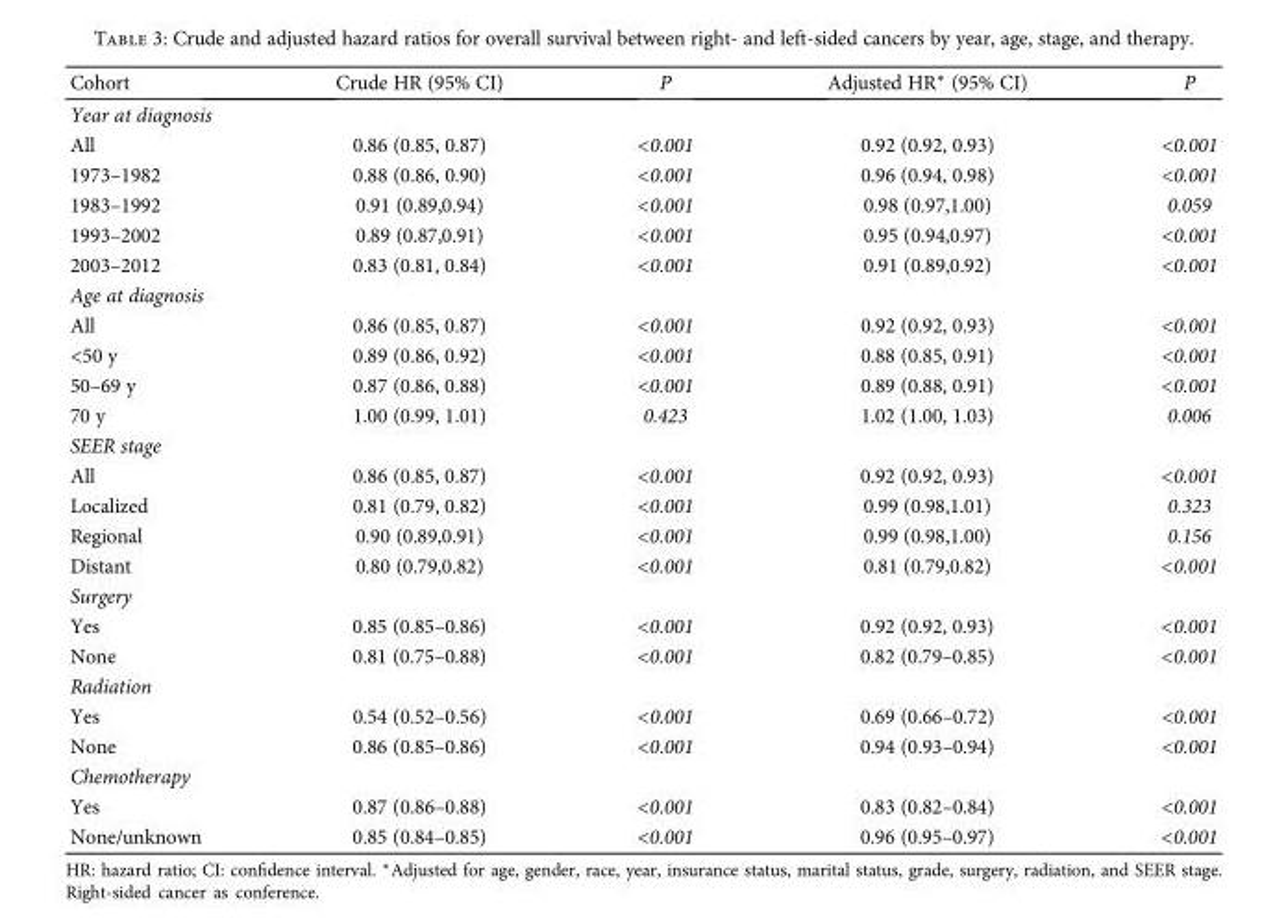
<table><thead><tr><td>Cohort</td><td>Crude HR (95% CI)</td><td>P</td><td>Adjusted HR∗ (95% CI)</td><td>P</td></tr></thead><tbody><tr><td colspan="5">Year at diagnosis</td></tr><tr><td>All</td><td>0.86 (0.85, 0.87)</td><td>&lt;0.001</td><td>0.92 (0.92, 0.93)</td><td>&lt;0.001</td></tr><tr><td>1973–1982</td><td>0.88 (0.86, 0.90)</td><td>&lt;0.001</td><td>0.96 (0.94, 0.98)</td><td>&lt;0.001</td></tr><tr><td>1983–1992</td><td>0.91 (0.89,0.94)</td><td>&lt;0.001</td><td>0.98 (0.97,1.00)</td><td>0.059</td></tr><tr><td>1993–2002</td><td>0.89 (0.87,0.91)</td><td>&lt;0.001</td><td>0.95 (0.94,0.97)</td><td>&lt;0.001</td></tr><tr><td>2003–2012</td><td>0.83 (0.81, 0.84)</td><td>&lt;0.001</td><td>0.91 (0.89,0.92)</td><td>&lt;0.001</td></tr><tr><td colspan="5">Age at diagnosis</td></tr><tr><td>All</td><td>0.86 (0.85, 0.87)</td><td>&lt;0.001</td><td>0.92 (0.92, 0.93)</td><td>&lt;0.001</td></tr><tr><td>&lt;50 y</td><td>0.89 (0.86, 0.92)</td><td>&lt;0.001</td><td>0.88 (0.85, 0.91)</td><td>&lt;0.001</td></tr><tr><td>50–69 y</td><td>0.87 (0.86, 0.88)</td><td>&lt;0.001</td><td>0.89 (0.88, 0.91)</td><td>&lt;0.001</td></tr><tr><td>70 y</td><td>1.00 (0.99, 1.01)</td><td>0.423</td><td>1.02 (1.00, 1.03)</td><td>0.006</td></tr><tr><td colspan="5">SEER stage</td></tr><tr><td>All</td><td>0.86 (0.85, 0.87)</td><td>&lt;0.001</td><td>0.92 (0.92, 0.93)</td><td>&lt;0.001</td></tr><tr><td>Localized</td><td>0.81 (0.79, 0.82)</td><td>&lt;0.001</td><td>0.99 (0.98,1.01)</td><td>0.323</td></tr><tr><td>Regional</td><td>0.90 (0.89,0.91)</td><td>&lt;0.001</td><td>0.99 (0.98,1.00)</td><td>0.156</td></tr><tr><td>Distant</td><td>0.80 (0.79,0.82)</td><td>&lt;0.001</td><td>0.81 (0.79,0.82)</td><td>&lt;0.001</td></tr><tr><td colspan="5">Surgery</td></tr><tr><td>Yes</td><td>0.85 (0.85–0.86)</td><td>&lt;0.001</td><td>0.92 (0.92, 0.93)</td><td>&lt;0.001</td></tr><tr><td>None</td><td>0.81 (0.75–0.88)</td><td>&lt;0.001</td><td>0.82 (0.79–0.85)</td><td>&lt;0.001</td></tr><tr><td colspan="5">Radiation</td></tr><tr><td>Yes</td><td>0.54 (0.52–0.56)</td><td>&lt;0.001</td><td>0.69 (0.66–0.72)</td><td>&lt;0.001</td></tr><tr><td>None</td><td>0.86 (0.85–0.86)</td><td>&lt;0.001</td><td>0.94 (0.93–0.94)</td><td>&lt;0.001</td></tr><tr><td colspan="5">Chemotherapy</td></tr><tr><td>Yes</td><td>0.87 (0.86–0.88)</td><td>&lt;0.001</td><td>0.83 (0.82–0.84)</td><td>&lt;0.001</td></tr><tr><td>None/unknown</td><td>0.85 (0.84–0.85)</td><td>&lt;0.001</td><td>0.96 (0.95–0.97)</td><td>&lt;0.001</td></tr></tbody></table>